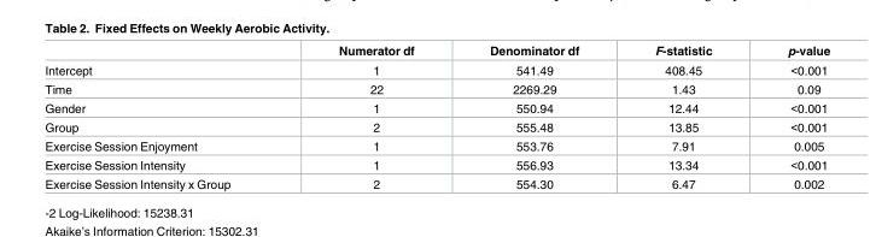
<table><thead><tr><td></td><td>Numerator df</td><td>Denominator df</td><td>F-statistic</td><td>p-value</td></tr></thead><tbody><tr><td>Intercept</td><td>1</td><td>541.49</td><td>408.45</td><td>&lt;0.001</td></tr><tr><td>Time</td><td>22</td><td>2269.29</td><td>1.43</td><td>0.09</td></tr><tr><td>Gender</td><td>1</td><td>550.94</td><td>12.44</td><td>&lt;0.001</td></tr><tr><td>Group</td><td>2</td><td>555.48</td><td>13.85</td><td>&lt;0.001</td></tr><tr><td>Exercise Session Enjoyment</td><td>1</td><td>553.76</td><td>7.91</td><td>0.005</td></tr><tr><td>Exercise Session Intensity</td><td>1</td><td>556.93</td><td>13.34</td><td>&lt;0.001</td></tr><tr><td>Exercise Session Intensity x Group</td><td>2</td><td>554.30</td><td>6.47</td><td>0.002</td></tr></tbody></table>